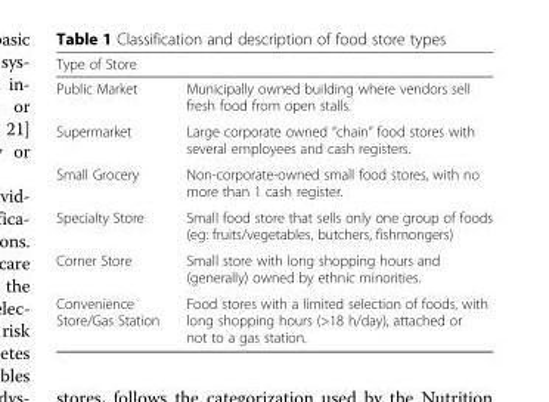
<table><thead><tr><td>Type of Store</td><td></td></tr></thead><tbody><tr><td>Public Market</td><td>Municipally owned building where vendors sell fresh food from open stalls.</td></tr><tr><td>Supermarket</td><td>Large corporate owned “chain” food stores with several employees and cash registers.</td></tr><tr><td>Small Grocery</td><td>Non-corporate-owned small food stores, with no more than 1 cash register.</td></tr><tr><td>Specialty Store</td><td>Small food store that sells only one group of foods (eg: fruits/vegetables, butchers, fishmongers)</td></tr><tr><td>Corner Store</td><td>Small store with long shopping hours and (generally) owned by ethnic minorities.</td></tr><tr><td>Convenience Store/Gas Station</td><td>Food stores with a limited selection of foods, with long shopping hours (&gt;18 h/day), attached or not to a gas station.</td></tr></tbody></table>